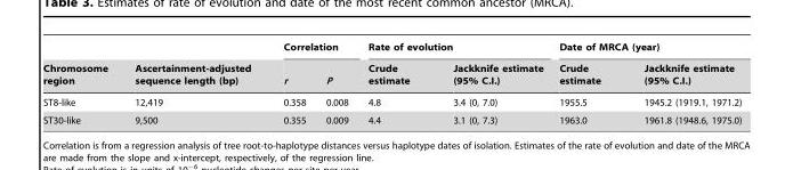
<table><thead><tr><td rowspan="2">Chromosome region</td><td rowspan="2">Ascertainment-adjusted sequence length (bp)</td><td colspan="2">Correlation</td><td colspan="2">Rate of evolution</td><td colspan="2">Date of MRCA (year)</td></tr><tr><td>r</td><td>P</td><td>Crude estimate</td><td>Jackknife estimate (95% C.I.)</td><td>Crude estimate</td><td>Jackknife estimate (95% C.I.)</td></tr></thead><tbody><tr><td>ST8-like</td><td>12,419</td><td>0.358</td><td>0.008</td><td>4.8</td><td>3.4 (0, 7.0)</td><td>1955.5</td><td>1945.2 (1919.1, 1971.2)</td></tr><tr><td>ST30-like</td><td>9,500</td><td>0.355</td><td>0.009</td><td>4.4</td><td>3.1 (0, 7.3)</td><td>1963.0</td><td>1961.8 (1948.6, 1975.0)</td></tr></tbody></table>